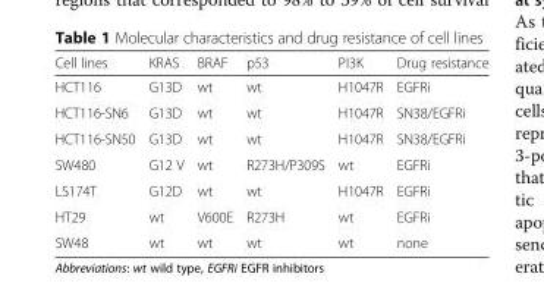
<table><thead><tr><td>Cell lines</td><td>KRAS</td><td>BRAF</td><td>p53</td><td>PI3K</td><td>Drug resistance</td></tr></thead><tbody><tr><td>HCT116</td><td>G13D</td><td>wt</td><td>wt</td><td>H1047R</td><td>EGFRi</td></tr><tr><td>HCT116-SN6</td><td>G13D</td><td>wt</td><td>wt</td><td>H1047R</td><td>SN38/EGFRi</td></tr><tr><td>HCT116-SN50</td><td>G13D</td><td>wt</td><td>wt</td><td>H1047R</td><td>SN38/EGFRi</td></tr><tr><td>SW480</td><td>G12 V</td><td>wt</td><td>R273H/P309S</td><td>wt</td><td>EGFRi</td></tr><tr><td>LS174T</td><td>G12D</td><td>wt</td><td>wt</td><td>H1047R</td><td>EGFRi</td></tr><tr><td>HT29</td><td>wt</td><td>V600E</td><td>R273H</td><td>wt</td><td>EGFRi</td></tr><tr><td>SW48</td><td>wt</td><td>wt</td><td>wt</td><td>wt</td><td>none</td></tr></tbody></table>